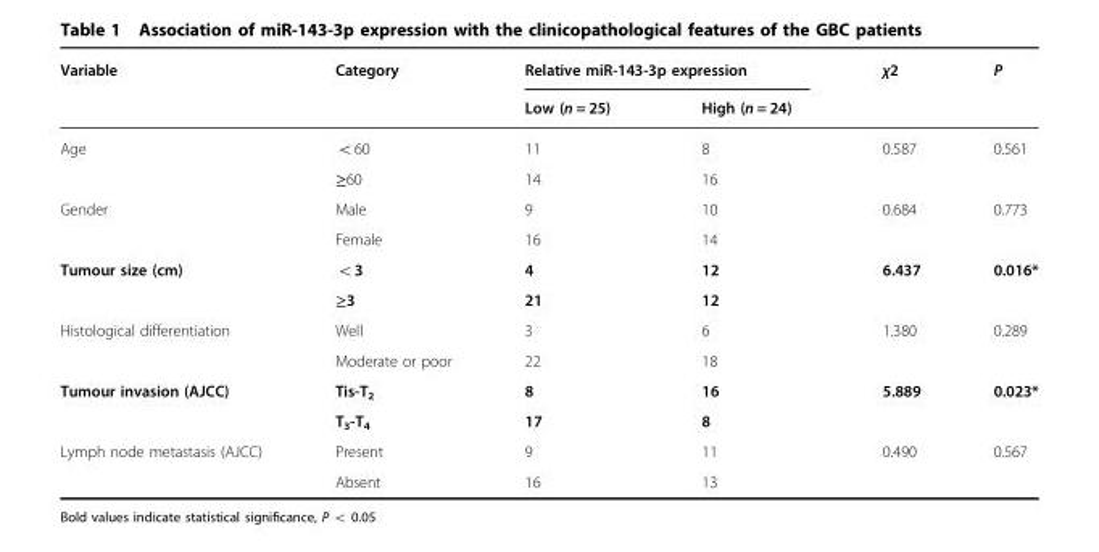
<table><thead><tr><td rowspan="2">Variable</td><td rowspan="2">Category</td><td colspan="2">Relative miR-143-3p expression</td><td rowspan="2">χ2</td><td rowspan="2">P</td></tr><tr><td>Low (n = 25)</td><td>High (n = 24)</td></tr></thead><tbody><tr><td rowspan="2">Age</td><td>&lt;60</td><td>11</td><td>8</td><td>0.587</td><td>0.561</td></tr><tr><td>≥60</td><td>14</td><td>16</td><td></td><td></td></tr><tr><td rowspan="2">Gender</td><td>Male</td><td>9</td><td>10</td><td>0.684</td><td>0.773</td></tr><tr><td>Female</td><td>16</td><td>14</td><td></td><td></td></tr><tr><td rowspan="2">Tumour size (cm)</td><td>&lt;3</td><td>4</td><td>12</td><td>6.437</td><td>0.016*</td></tr><tr><td>≥3</td><td>21</td><td>12</td><td></td><td></td></tr><tr><td rowspan="2">Histological differentiation</td><td>Well</td><td>3</td><td>6</td><td>1.380</td><td>0.289</td></tr><tr><td>Moderate or poor</td><td>22</td><td>18</td><td></td><td></td></tr><tr><td rowspan="2">Tumour invasion (AJCC)</td><td>Tis-T<sub>2</sub></td><td>8</td><td>16</td><td>5.889</td><td>0.023*</td></tr><tr><td>T<sub>3</sub>-T<sub>4</sub></td><td>17</td><td>8</td><td></td><td></td></tr><tr><td rowspan="2">Lymph node metastasis (AJCC)</td><td>Present</td><td>9</td><td>11</td><td>0.490</td><td>0.567</td></tr><tr><td>Absent</td><td>16</td><td>13</td><td></td><td></td></tr></tbody></table>